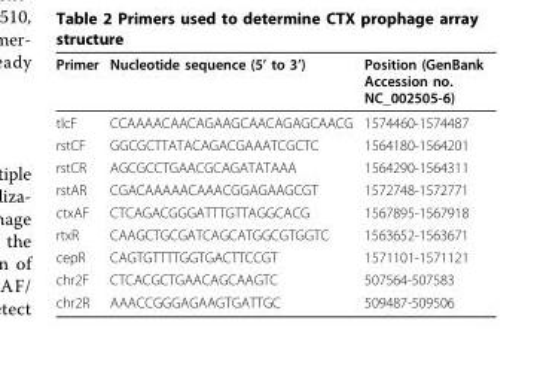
<table><thead><tr><td>Primer</td><td>Nucleotide sequence (5’ to 3’)</td><td>Position (GenBank Accession no. NC_002505-6)</td></tr></thead><tbody><tr><td>tlcF</td><td>CCAAAACAACAGAAGCAACAGAGCAACG</td><td>1574460-1574487</td></tr><tr><td>rstCF</td><td>GGCGCTTATACAGACGAAATCGCTC</td><td>1564180-1564201</td></tr><tr><td>rstCR</td><td>AGCGCCTGAACGCAGATATAAA</td><td>1564290-1564311</td></tr><tr><td>rstAR</td><td>CGACAAAAACAAACGGAGAAGCGT</td><td>1572748-1572771</td></tr><tr><td>ctxAF</td><td>CTCAGACGGGATTTGTTAGGCACG</td><td>1567895-1567918</td></tr><tr><td>rtxR</td><td>CAAGCTGCGATCAGCATGGCGTGGTC</td><td>1563652-1563671</td></tr><tr><td>cepR</td><td>CAGTGTTTTGGTGACTTCCGT</td><td>1571101-1571121</td></tr><tr><td>chr2F</td><td>CTCACGCTGAACAGCAAGTC</td><td>507564-507583</td></tr><tr><td>chr2R</td><td>AAACCGGGAGAAGTGATTGC</td><td>509487-509506</td></tr></tbody></table>